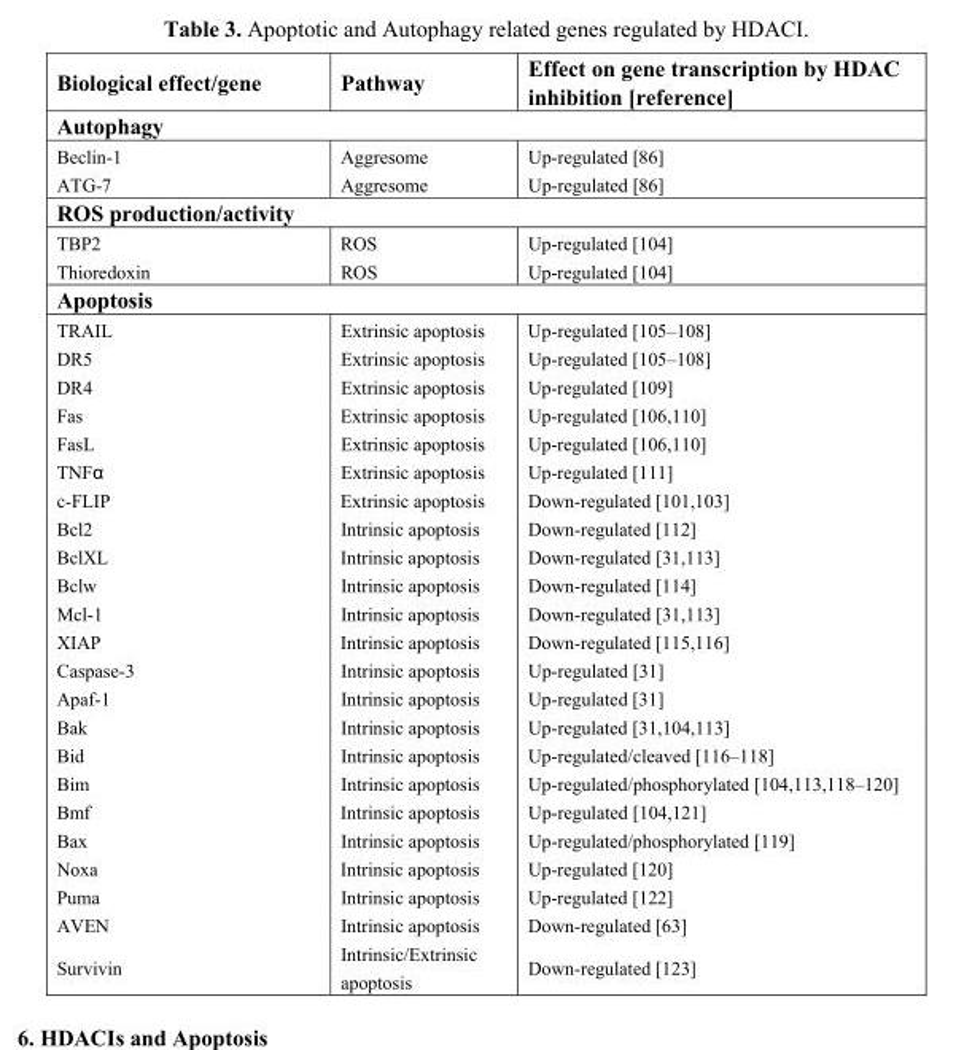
<table><thead><tr><td>Biological effect/gene</td><td>Pathway</td><td>Effect on gene transcription by HDAC inhibition [reference]</td></tr></thead><tbody><tr><td colspan="3">Autophagy</td></tr><tr><td>Beclin-1</td><td>Aggresome</td><td>Up-regulated [86]</td></tr><tr><td>ATG-7</td><td>Aggresome</td><td>Up-regulated [86]</td></tr><tr><td colspan="3">ROS production/activity</td></tr><tr><td>TBP2</td><td>ROS</td><td>Up-regulated [104]</td></tr><tr><td>Thioredoxin</td><td>ROS</td><td>Up-regulated [104]</td></tr><tr><td colspan="3">Apoptosis</td></tr><tr><td>TRAIL</td><td>Extrinsic apoptosis</td><td>Up-regulated [105–108]</td></tr><tr><td>DR5</td><td>Extrinsic apoptosis</td><td>Up-regulated [105–108]</td></tr><tr><td>DR4</td><td>Extrinsic apoptosis</td><td>Up-regulated [109]</td></tr><tr><td>Fas</td><td>Extrinsic apoptosis</td><td>Up-regulated [106,110]</td></tr><tr><td>FasL</td><td>Extrinsic apoptosis</td><td>Up-regulated [106,110]</td></tr><tr><td>TNFα</td><td>Extrinsic apoptosis</td><td>Up-regulated [111]</td></tr><tr><td>c-FLIP</td><td>Extrinsic apoptosis</td><td>Down-regulated [101,103]</td></tr><tr><td>Bcl2</td><td>Intrinsic apoptosis</td><td>Down-regulated [112]</td></tr><tr><td>BclXL</td><td>Intrinsic apoptosis</td><td>Down-regulated [31,113]</td></tr><tr><td>Bclw</td><td>Intrinsic apoptosis</td><td>Down-regulated [114]</td></tr><tr><td>Mcl-1</td><td>Intrinsic apoptosis</td><td>Down-regulated [31,113]</td></tr><tr><td>XIAP</td><td>Intrinsic apoptosis</td><td>Down-regulated [115,116]</td></tr><tr><td>Caspase-3</td><td>Intrinsic apoptosis</td><td>Up-regulated [31]</td></tr><tr><td>Apaf-1</td><td>Intrinsic apoptosis</td><td>Up-regulated [31]</td></tr><tr><td>Bak</td><td>Intrinsic apoptosis</td><td>Up-regulated [31,104,113]</td></tr><tr><td>Bid</td><td>Intrinsic apoptosis</td><td>Up-regulated/cleaved [116–118]</td></tr><tr><td>Bim</td><td>Intrinsic apoptosis</td><td>Up-regulated/phosphorylated [104,113,118–120]</td></tr><tr><td>Bmf</td><td>Intrinsic apoptosis</td><td>Up-regulated [104,121]</td></tr><tr><td>Bax</td><td>Intrinsic apoptosis</td><td>Up-regulated/phosphorylated [119]</td></tr><tr><td>Noxa</td><td>Intrinsic apoptosis</td><td>Up-regulated [120]</td></tr><tr><td>Puma</td><td>Intrinsic apoptosis</td><td>Up-regulated [122]</td></tr><tr><td>AVEN</td><td>Intrinsic apoptosis</td><td>Down-regulated [63]</td></tr><tr><td>Survivin</td><td>Intrinsic/Extrinsic apoptosis</td><td>Down-regulated [123]</td></tr></tbody></table>